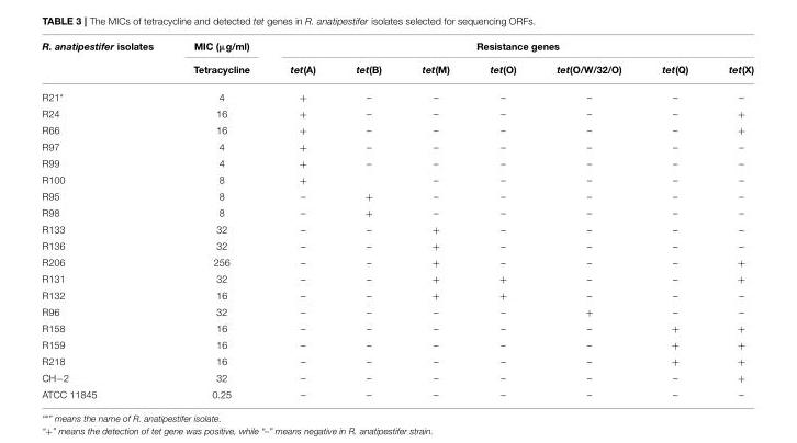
<table><thead><tr><td rowspan="2">R. anatipestifer isolates</td><td rowspan="2">MIC (µg/ml) Tetracycline</td><td colspan="7">Resistance genes</td></tr><tr><td>tet(A)</td><td>tet(B)</td><td>tet(M)</td><td>tet(O)</td><td>tet(O/W/32/O)</td><td>tet(Q)</td><td>tet(X)</td></tr></thead><tbody><tr><td>R21*</td><td>4</td><td>+</td><td>–</td><td>–</td><td>–</td><td>–</td><td>–</td><td>–</td></tr><tr><td>R24</td><td>16</td><td>+</td><td>–</td><td>–</td><td>–</td><td>–</td><td>–</td><td>+</td></tr><tr><td>R66</td><td>16</td><td>+</td><td>–</td><td>–</td><td>–</td><td>–</td><td>–</td><td>+</td></tr><tr><td>R97</td><td>4</td><td>+</td><td>–</td><td>–</td><td>–</td><td>–</td><td>–</td><td>–</td></tr><tr><td>R99</td><td>4</td><td>+</td><td>–</td><td>–</td><td>–</td><td>–</td><td>–</td><td>–</td></tr><tr><td>R100</td><td>8</td><td>+</td><td></td><td>–</td><td>–</td><td>–</td><td>–</td><td>–</td></tr><tr><td>R95</td><td>8</td><td>–</td><td>+</td><td>–</td><td>–</td><td>–</td><td>–</td><td>–</td></tr><tr><td>R98</td><td>8</td><td>–</td><td>+</td><td>–</td><td>–</td><td>–</td><td>–</td><td>–</td></tr><tr><td>R133</td><td>32</td><td>–</td><td>–</td><td>+</td><td>–</td><td>–</td><td>–</td><td>–</td></tr><tr><td>R136</td><td>32</td><td>–</td><td>–</td><td>+</td><td>–</td><td>–</td><td>–</td><td>–</td></tr><tr><td>R206</td><td>256</td><td>–</td><td>–</td><td>+</td><td>–</td><td>–</td><td>–</td><td>+</td></tr><tr><td>R131</td><td>32</td><td>–</td><td>–</td><td>+</td><td>+</td><td>–</td><td>–</td><td>+</td></tr><tr><td>R132</td><td>16</td><td>–</td><td>–</td><td>+</td><td>+</td><td>–</td><td>–</td><td>–</td></tr><tr><td>R96</td><td>32</td><td>–</td><td>–</td><td>–</td><td>–</td><td>+</td><td>–</td><td>–</td></tr><tr><td>R158</td><td>16</td><td>–</td><td>–</td><td>–</td><td>–</td><td>–</td><td>+</td><td>+</td></tr><tr><td>R159</td><td>16</td><td>–</td><td>–</td><td>–</td><td>–</td><td>–</td><td>+</td><td>+</td></tr><tr><td>R218</td><td>16</td><td>–</td><td>–</td><td>–</td><td>–</td><td>–</td><td>+</td><td>+</td></tr><tr><td>CH−2</td><td>32</td><td>–</td><td>–</td><td>–</td><td>–</td><td>–</td><td>–</td><td>+</td></tr><tr><td>ATCC 11845</td><td>0.25</td><td>–</td><td>–</td><td>–</td><td>–</td><td>–</td><td>–</td><td>–</td></tr></tbody></table>